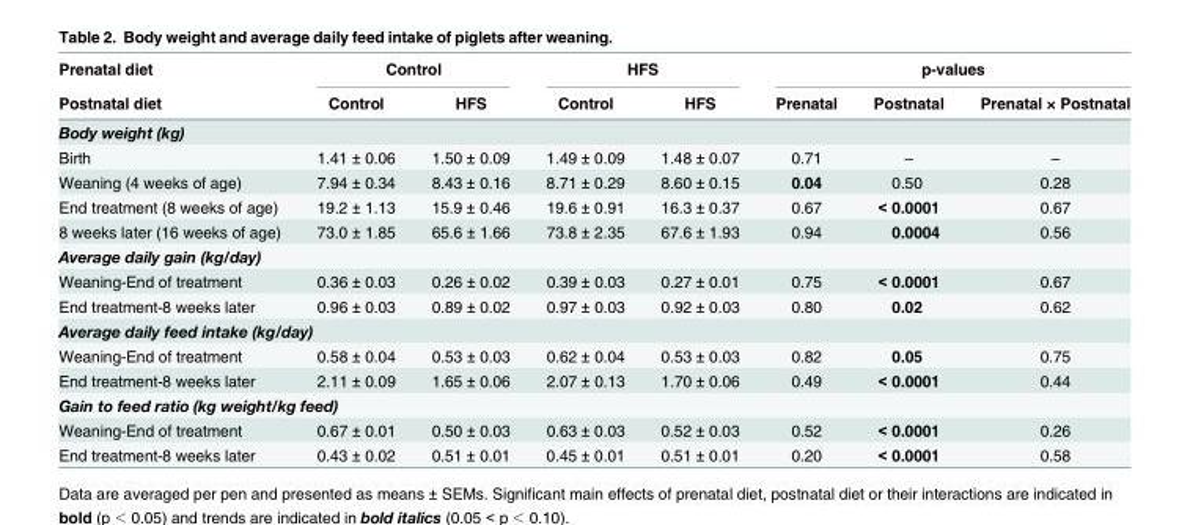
<table><thead><tr><td rowspan="2">Prenatal diet Postnatal diet</td><td colspan="2">Control</td><td colspan="2">HFS</td><td colspan="3">p-values</td></tr><tr><td>Control</td><td>HFS</td><td>Control</td><td>HFS</td><td>Prenatal</td><td>Postnatal</td><td>Prenatal × Postnatal</td></tr></thead><tbody><tr><td colspan="8">Body weight (kg)</td></tr><tr><td>Birth</td><td>1.41 ± 0.06</td><td>1.50 ± 0.09</td><td>1.49 ± 0.09</td><td>1.48 ± 0.07</td><td>0.71</td><td>‒</td><td>‒</td></tr><tr><td>Weaning (4 weeks of age)</td><td>7.94 ± 0.34</td><td>8.43 ± 0.16</td><td>8.71 ± 0.29</td><td>8.60 ± 0.15</td><td>0.04</td><td>0.50</td><td>0.28</td></tr><tr><td>End treatment (8 weeks of age)</td><td>19.2 ± 1.13</td><td>15.9 ± 0.46</td><td>19.6 ± 0.91</td><td>16.3 ± 0.37</td><td>0.67</td><td>&lt; 0.0001</td><td>0.67</td></tr><tr><td>8 weeks later (16 weeks of age)</td><td>73.0 ± 1.85</td><td>65.6 ± 1.66</td><td>73.8 ± 2.35</td><td>67.6 ± 1.93</td><td>0.94</td><td>0.0004</td><td>0.56</td></tr><tr><td colspan="8">Average daily gain (kg/day)</td></tr><tr><td>Weaning-End of treatment</td><td>0.36 ± 0.03</td><td>0.26 ± 0.02</td><td>0.39 ± 0.03</td><td>0.27 ± 0.01</td><td>0.75</td><td>&lt; 0.0001</td><td>0.67</td></tr><tr><td>End treatment-8 weeks later</td><td>0.96 ± 0.03</td><td>0.89 ± 0.02</td><td>0.97 ± 0.03</td><td>0.92 ± 0.03</td><td>0.80</td><td>0.02</td><td>0.62</td></tr><tr><td colspan="8">Average daily feed intake (kg/day)</td></tr><tr><td>Weaning-End of treatment</td><td>0.58 ± 0.04</td><td>0.53 ± 0.03</td><td>0.62 ± 0.04</td><td>0.53 ± 0.03</td><td>0.82</td><td>0.05</td><td>0.75</td></tr><tr><td>End treatment-8 weeks later</td><td>2.11 ± 0.09</td><td>1.65 ± 0.06</td><td>2.07 ± 0.13</td><td>1.70 ± 0.06</td><td>0.49</td><td>&lt; 0.0001</td><td>0.44</td></tr><tr><td colspan="8">Gain to feed ratio (kg weight/kg feed)</td></tr><tr><td>Weaning-End of treatment</td><td>0.67 ± 0.01</td><td>0.50 ± 0.03</td><td>0.63 ± 0.03</td><td>0.52 ± 0.03</td><td>0.52</td><td>&lt; 0.0001</td><td>0.26</td></tr><tr><td>End treatment-8 weeks later</td><td>0.43 ± 0.02</td><td>0.51 ± 0.01</td><td>0.45 ± 0.01</td><td>0.51 ± 0.01</td><td>0.20</td><td>&lt; 0.0001</td><td>0.58</td></tr></tbody></table>